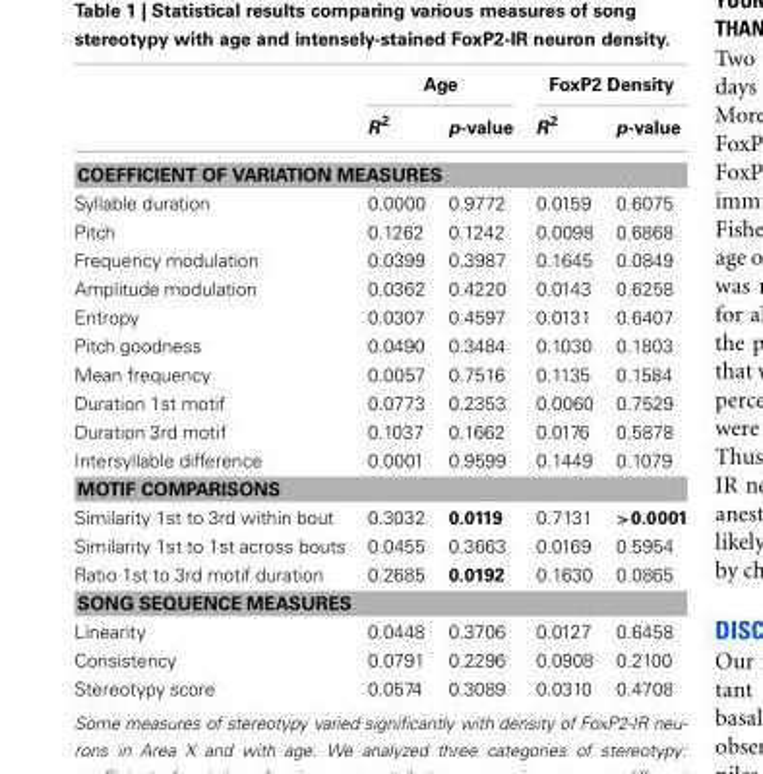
<table><thead><tr><td rowspan="2"></td><td colspan="2">Age</td><td colspan="2">FoxP2 Density</td></tr><tr><td>R2</td><td>p-value</td><td>R2</td><td>p-value</td></tr></thead><tbody><tr><td colspan="5">COEFFICIENT OF VARIATION MEASURES</td></tr><tr><td>Syllable duration</td><td>0.0000</td><td>0.9772</td><td>0.0159</td><td>0.6075</td></tr><tr><td>Pitch</td><td>0.1262</td><td>0.1242</td><td>0.0098</td><td>0.6868</td></tr><tr><td>Frequency modulation</td><td>0.0399</td><td>0.3987</td><td>0.1645</td><td>0.0849</td></tr><tr><td>Amplitude modulation</td><td>0.0362</td><td>0.4220</td><td>0.0143</td><td>0.6258</td></tr><tr><td>Entropy</td><td>0.0307</td><td>0.4597</td><td>0.0131</td><td>0.6407</td></tr><tr><td>Pitch goodness</td><td>0.0490</td><td>0.3484</td><td>0.1030</td><td>0.1803</td></tr><tr><td>Mean frequency</td><td>0.0057</td><td>0.7516</td><td>0.1135</td><td>0.1584</td></tr><tr><td>Duration 1st motif</td><td>0.0773</td><td>0.2353</td><td>0.0060</td><td>0.7529</td></tr><tr><td>Duration 3rd motif</td><td>0.1037</td><td>0.1662</td><td>0.0176</td><td>0.5878</td></tr><tr><td>Intersyllable difference</td><td>0.0001</td><td>0.9599</td><td>0.1449</td><td>0.1079</td></tr><tr><td colspan="5">MOTIF COMPARISONS</td></tr><tr><td>Similarity 1st to 3rd within bout</td><td>0.3032</td><td>0.0119</td><td>0.7131</td><td>&gt;0.0001</td></tr><tr><td>Similarity 1st to 1st across bouts</td><td>0.0455</td><td>0.3663</td><td>0.0169</td><td>0.5954</td></tr><tr><td>Ratio 1st to 3rd motif duration</td><td>0.2685</td><td>0.0192</td><td>0.1630</td><td>0.0865</td></tr><tr><td colspan="5">SONG SEQUENCE MEASURES</td></tr><tr><td>Linearity</td><td>0.0448</td><td>0.3706</td><td>0.0127</td><td>0.6458</td></tr><tr><td>Consistency</td><td>0.0791</td><td>0.2296</td><td>0.0908</td><td>0.2100</td></tr><tr><td>Stereotypy score</td><td>0.0574</td><td>0.3089</td><td>0.0310</td><td>0.4708</td></tr></tbody></table>